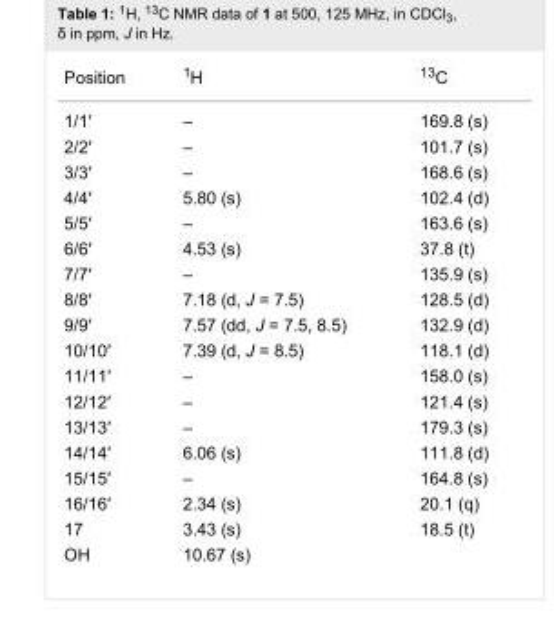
<table><tbody><tr><td>Position</td><td><sup>1</sup>H</td><td><sup>13</sup>C</td></tr><tr><td>1/1′</td><td>–</td><td>169.8 (s)</td></tr><tr><td>2/2′</td><td>–</td><td>101.7 (s)</td></tr><tr><td>3/3′</td><td>–</td><td>168.6 (s)</td></tr><tr><td>4/4′</td><td>5.80 (s)</td><td>102.4 (d)</td></tr><tr><td>5/5′</td><td>–</td><td>163.6 (s)</td></tr><tr><td>6/6′</td><td>4.53 (s)</td><td>37.8 (t)</td></tr><tr><td>7/7′</td><td>–</td><td>135.9 (s)</td></tr><tr><td>8/8′</td><td>7.18 (d, J = 7.5)</td><td>128.5 (d)</td></tr><tr><td>9/9′</td><td>7.57 (dd, J = 7.5, 8.5)</td><td>132.9 (d)</td></tr><tr><td>10/10′</td><td>7.39 (d, J = 8.5)</td><td>118.1 (d)</td></tr><tr><td>11/11′</td><td>–</td><td>158.0 (s)</td></tr><tr><td>12/12′</td><td>–</td><td>121.4 (s)</td></tr><tr><td>13/13′</td><td>–</td><td>179.3 (s)</td></tr><tr><td>14/14′</td><td>6.06 (s)</td><td>111.8 (d)</td></tr><tr><td>15/15′</td><td>–</td><td>164.8 (s)</td></tr><tr><td>16/16′</td><td>2.34 (s)</td><td>20.1 (q)</td></tr><tr><td>17</td><td>3.43 (s)</td><td>18.5 (t)</td></tr><tr><td>OH</td><td>10.67 (s)</td><td></td></tr></tbody></table>